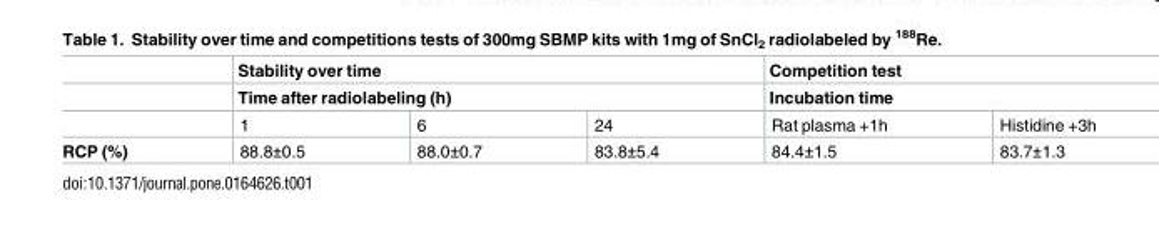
<table><thead><tr><td rowspan="3"></td><td rowspan="2" colspan="3">Stability over time Time after radiolabeling (h)</td><td rowspan="2" colspan="2">Competition test Incubation time</td></tr><tr></tr><tr><td>1</td><td>6</td><td>24</td><td>Rat plasma +1h</td><td>Histidine +3h</td></tr></thead><tbody><tr><td>RCP (%)</td><td>88.8±0.5</td><td>88.0±0.7</td><td>83.8±5.4</td><td>84.4±1.5</td><td>83.7±1.3</td></tr></tbody></table>